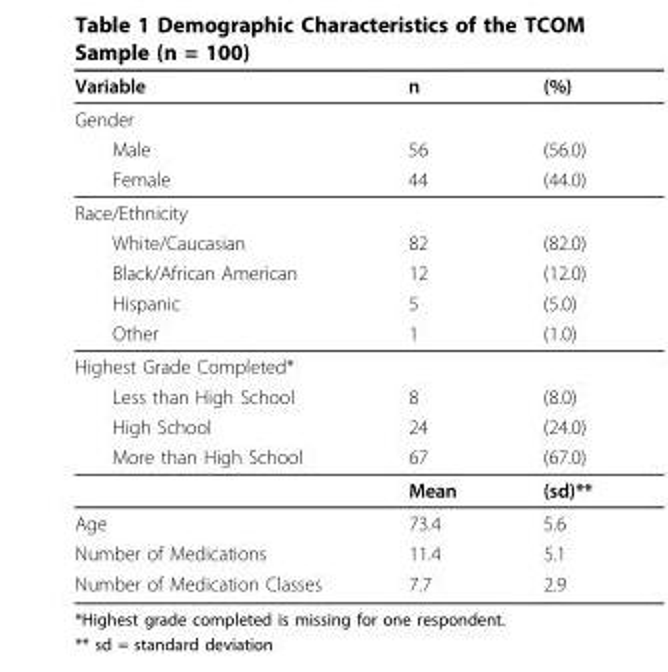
<table><thead><tr><td>Variable</td><td>n</td><td>(%)</td></tr></thead><tbody><tr><td colspan="3">Gender</td></tr><tr><td>Male</td><td>56</td><td>(56.0)</td></tr><tr><td>Female</td><td>44</td><td>(44.0)</td></tr><tr><td colspan="3">Race/Ethnicity</td></tr><tr><td>White/Caucasian</td><td>82</td><td>(82.0)</td></tr><tr><td>Black/African American</td><td>12</td><td>(12.0)</td></tr><tr><td>Hispanic</td><td>5</td><td>(5.0)</td></tr><tr><td>Other</td><td>1</td><td>(1.0)</td></tr><tr><td colspan="3">Highest Grade Completed*</td></tr><tr><td>Less than High School</td><td>8</td><td>(8.0)</td></tr><tr><td>High School</td><td>24</td><td>(24.0)</td></tr><tr><td rowspan="2">More than High School</td><td>67</td><td>(67.0)</td></tr><tr><td>Mean</td><td>(sd)**</td></tr><tr><td>Age</td><td>73.4</td><td>5.6</td></tr><tr><td>Number of Medications</td><td>11.4</td><td>5.1</td></tr><tr><td>Number of Medication Classes</td><td>7.7</td><td>2.9</td></tr></tbody></table>